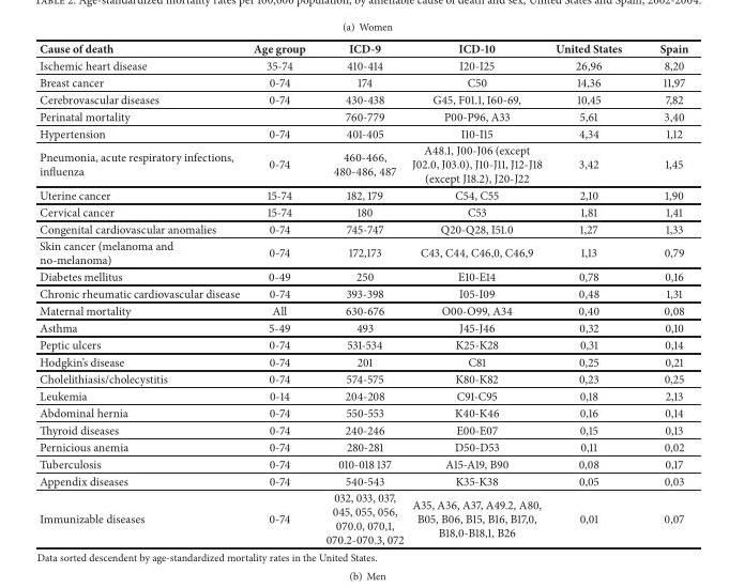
<table><thead><tr><td>Cause of death</td><td>Age group</td><td>ICD-9</td><td>ICD-10</td><td>United States</td><td>Spain</td></tr></thead><tbody><tr><td>Ischemic heart disease</td><td>35-74</td><td>410-414</td><td>I20-I25</td><td>26,96</td><td>8,20</td></tr><tr><td>Breast cancer</td><td>0-74</td><td>174</td><td>C50</td><td>14,36</td><td>11,97</td></tr><tr><td>Cerebrovascular diseases</td><td>0-74</td><td>430-438</td><td>G45, F01.1, I60-69,</td><td>10,45</td><td>7,82</td></tr><tr><td>Perinatal mortality</td><td></td><td>760-779</td><td>P00-P96, A33</td><td>5,61</td><td>3,40</td></tr><tr><td>Hypertension</td><td>0-74</td><td>401-405</td><td>I10-I15</td><td>4,34</td><td>1,12</td></tr><tr><td>Pneumonia, acute respiratory infections, influenza</td><td>0-74</td><td>460-466, 480-486, 487</td><td>A48.1, J00-J06 (except J02.0, J03.0), J10-J11, J12-J18 (except J18.2), J20-J22</td><td>3,42</td><td>1,45</td></tr><tr><td>Uterine cancer</td><td>15-74</td><td>182, 179</td><td>C54, C55</td><td>2,10</td><td>1,90</td></tr><tr><td>Cervical cancer</td><td>15-74</td><td>180</td><td>C53</td><td>1,81</td><td>1,41</td></tr><tr><td>Congenital cardiovascular anomalies</td><td>0-74</td><td>745-747</td><td>Q20-Q28, I51.0</td><td>1,27</td><td>1,33</td></tr><tr><td>Skin cancer (melanoma and no-melanoma)</td><td>0-74</td><td>172,173</td><td>C43, C44, C46,0, C46,9</td><td>1,13</td><td>0,79</td></tr><tr><td>Diabetes mellitus</td><td>0-49</td><td>250</td><td>E10-E14</td><td>0,78</td><td>0,16</td></tr><tr><td>Chronic rheumatic cardiovascular disease</td><td>0-74</td><td>393-398</td><td>I05-I09</td><td>0,48</td><td>1,31</td></tr><tr><td>Maternal mortality</td><td>All</td><td>630-676</td><td>O00-O99, A34</td><td>0,40</td><td>0,08</td></tr><tr><td>Asthma</td><td>5-49</td><td>493</td><td>J45-J46</td><td>0,32</td><td>0,10</td></tr><tr><td>Peptic ulcers</td><td>0-74</td><td>531-534</td><td>K25-K28</td><td>0,31</td><td>0,14</td></tr><tr><td>Hodgkin’s disease</td><td>0-74</td><td>201</td><td>C81</td><td>0,25</td><td>0,21</td></tr><tr><td>Cholelithiasis/cholecystitis</td><td>0-74</td><td>574-575</td><td>K80-K82</td><td>0,23</td><td>0,25</td></tr><tr><td>Leukemia</td><td>0-14</td><td>204-208</td><td>C91-C95</td><td>0,18</td><td>2,13</td></tr><tr><td>Abdominal hernia</td><td>0-74</td><td>550-553</td><td>K40-K46</td><td>0,16</td><td>0,14</td></tr><tr><td>Thyroid diseases</td><td>0-74</td><td>240-246</td><td>E00-E07</td><td>0,15</td><td>0,13</td></tr><tr><td>Pernicious anemia</td><td>0-74</td><td>280-281</td><td>D50-D53</td><td>0,11</td><td>0,02</td></tr><tr><td>Tuberculosis</td><td>0-74</td><td>010-018 137</td><td>A15-A19, B90</td><td>0,08</td><td>0,17</td></tr><tr><td>Appendix diseases</td><td>0-74</td><td>540-543</td><td>K35-K38</td><td>0,05</td><td>0,03</td></tr><tr><td>Immunizable diseases</td><td>0-74</td><td>032, 033, 037, 045, 055, 056, 070.0, 070,1, 070.2-070.3, 072</td><td>A35, A36, A37, A49.2, A80, B05, B06, B15, B16, B17,0, B18,0-B18,1, B26</td><td>0,01</td><td>0,07</td></tr></tbody></table>